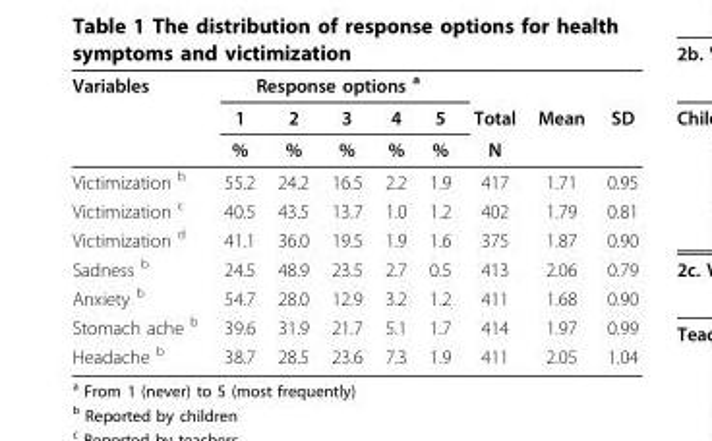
<table><thead><tr><td rowspan="3">Variables</td><td colspan="5">Response options <sup>a</sup></td><td rowspan="3">Total N</td><td rowspan="3">Mean</td><td rowspan="3">SD</td></tr><tr><td rowspan="2">1 %</td><td rowspan="2">2 %</td><td rowspan="2">3 %</td><td rowspan="2">4 %</td><td rowspan="2">5 %</td></tr><tr></tr></thead><tbody><tr><td>Victimization <sup>b</sup></td><td>55.2</td><td>24.2</td><td>16.5</td><td>2.2</td><td>1.9</td><td>417</td><td>1.71</td><td>0.95</td></tr><tr><td>Victimization <sup>c</sup></td><td>40.5</td><td>43.5</td><td>13.7</td><td>1.0</td><td>1.2</td><td>402</td><td>1.79</td><td>0.81</td></tr><tr><td>Victimization <sup>d</sup></td><td>41.1</td><td>36.0</td><td>19.5</td><td>1.9</td><td>1.6</td><td>375</td><td>1.87</td><td>0.90</td></tr><tr><td>Sadness <sup>b</sup></td><td>24.5</td><td>48.9</td><td>23.5</td><td>2.7</td><td>0.5</td><td>413</td><td>2.06</td><td>0.79</td></tr><tr><td>Anxiety <sup>b</sup></td><td>54.7</td><td>28.0</td><td>12.9</td><td>3.2</td><td>1.2</td><td>411</td><td>1.68</td><td>0.90</td></tr><tr><td>Stomach ache <sup>b</sup></td><td>39.6</td><td>31.9</td><td>21.7</td><td>5.1</td><td>1.7</td><td>414</td><td>1.97</td><td>0.99</td></tr><tr><td>Headache <sup>b</sup></td><td>38.7</td><td>28.5</td><td>23.6</td><td>7.3</td><td>1.9</td><td>411</td><td>2.05</td><td>1.04</td></tr></tbody></table>